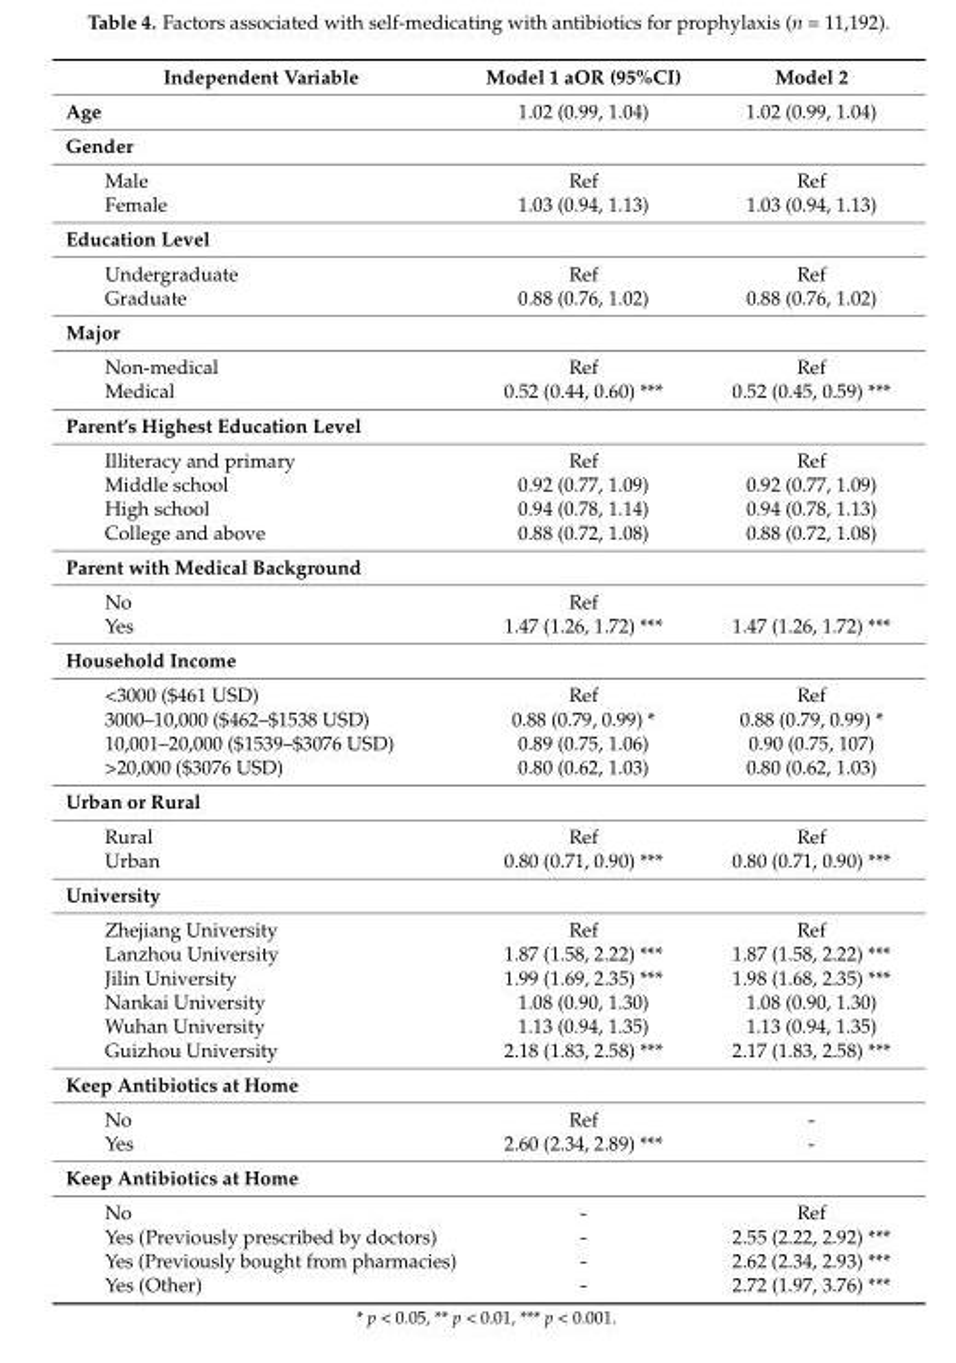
<table><thead><tr><td>Independent Variable</td><td>Model 1 aOR (95%CI)</td><td>Model 2</td></tr></thead><tbody><tr><td>Age</td><td>1.02 (0.99, 1.04)</td><td>1.02 (0.99, 1.04)</td></tr><tr><td colspan="3">Gender</td></tr><tr><td>Male</td><td>Ref</td><td>Ref</td></tr><tr><td>Female</td><td>1.03 (0.94, 1.13)</td><td>1.03 (0.94, 1.13)</td></tr><tr><td colspan="3">Education Level</td></tr><tr><td>Undergraduate</td><td>Ref</td><td>Ref</td></tr><tr><td>Graduate</td><td>0.88 (0.76, 1.02)</td><td>0.88 (0.76, 1.02)</td></tr><tr><td colspan="3">Major</td></tr><tr><td>Non-medical</td><td>Ref</td><td>Ref</td></tr><tr><td>Medical</td><td>0.52 (0.44, 0.60) ***</td><td>0.52 (0.45, 0.59) ***</td></tr><tr><td colspan="3">Parent’s Highest Education Level</td></tr><tr><td>Illiteracy and primary</td><td>Ref</td><td>Ref</td></tr><tr><td>Middle school</td><td>0.92 (0.77, 1.09)</td><td>0.92 (0.77, 1.09)</td></tr><tr><td>High school</td><td>0.94 (0.78, 1.14)</td><td>0.94 (0.78, 1.13)</td></tr><tr><td>College and above</td><td>0.88 (0.72, 1.08)</td><td>0.88 (0.72, 1.08)</td></tr><tr><td colspan="3">Parent with Medical Background</td></tr><tr><td>No</td><td>Ref</td><td></td></tr><tr><td>Yes</td><td>1.47 (1.26, 1.72) ***</td><td>1.47 (1.26, 1.72) ***</td></tr><tr><td colspan="3">Household Income</td></tr><tr><td>&lt;3000 ($461 USD)</td><td>Ref</td><td>Ref</td></tr><tr><td>3000–10,000 ($462–$1538 USD)</td><td>0.88 (0.79, 0.99) *</td><td>0.88 (0.79, 0.99) *</td></tr><tr><td>10,001–20,000 ($1539–$3076 USD)</td><td>0.89 (0.75, 1.06)</td><td>0.90 (0.75, 107)</td></tr><tr><td>&gt;20,000 ($3076 USD)</td><td>0.80 (0.62, 1.03)</td><td>0.80 (0.62, 1.03)</td></tr><tr><td colspan="3">Urban or Rural</td></tr><tr><td>Rural</td><td>Ref</td><td>Ref</td></tr><tr><td>Urban</td><td>0.80 (0.71, 0.90) ***</td><td>0.80 (0.71, 0.90) ***</td></tr><tr><td colspan="3">University</td></tr><tr><td>Zhejiang University</td><td>Ref</td><td>Ref</td></tr><tr><td>Lanzhou University</td><td>1.87 (1.58, 2.22) ***</td><td>1.87 (1.58, 2.22) ***</td></tr><tr><td>Jilin University</td><td>1.99 (1.69, 2.35) ***</td><td>1.98 (1.68, 2.35) ***</td></tr><tr><td>Nankai University</td><td>1.08 (0.90, 1.30)</td><td>1.08 (0.90, 1.30)</td></tr><tr><td>Wuhan University</td><td>1.13 (0.94, 1.35)</td><td>1.13 (0.94, 1.35)</td></tr><tr><td>Guizhou University</td><td>2.18 (1.83, 2.58) ***</td><td>2.17 (1.83, 2.58) ***</td></tr><tr><td colspan="3">Keep Antibiotics at Home</td></tr><tr><td>No</td><td>Ref</td><td>-</td></tr><tr><td>Yes</td><td>2.60 (2.34, 2.89) ***</td><td>-</td></tr><tr><td colspan="3">Keep Antibiotics at Home</td></tr><tr><td>No</td><td>-</td><td>Ref</td></tr><tr><td>Yes (Previously prescribed by doctors)</td><td>-</td><td>2.55 (2.22, 2.92) ***</td></tr><tr><td>Yes (Previously bought from pharmacies)</td><td>-</td><td>2.62 (2.34, 2.93) ***</td></tr><tr><td>Yes (Other)</td><td>-</td><td>2.72 (1.97, 3.76) ***</td></tr></tbody></table>